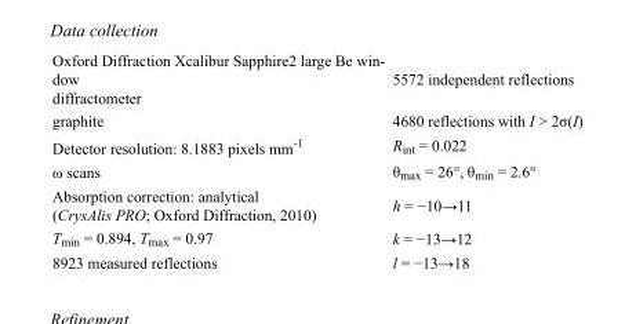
<table><tbody><tr><td>Oxford Diffraction Xcalibur Sapphire2 large Be win- dow diffractometer</td><td>5572 independent reflections</td></tr><tr><td>graphite</td><td>4680 reflections with I &gt; 2σ(I)</td></tr><tr><td>Detector resolution: 8.1883 pixels mm<sup>-1</sup></td><td>R<sub>int</sub> = 0.022</td></tr><tr><td>ω scans</td><td>θ<sub>max</sub> = 26°, θ<sub>min</sub> = 2.6°</td></tr><tr><td>Absorption correction: analytical (CrysAlis PRO; Oxford Diffraction, 2010)</td><td>h = −10→11</td></tr><tr><td>T<sub>min</sub> = 0.894, T<sub>max</sub> = 0.97</td><td>k = −13→12</td></tr><tr><td>8923 measured reflections</td><td>l = −13→18</td></tr></tbody></table>